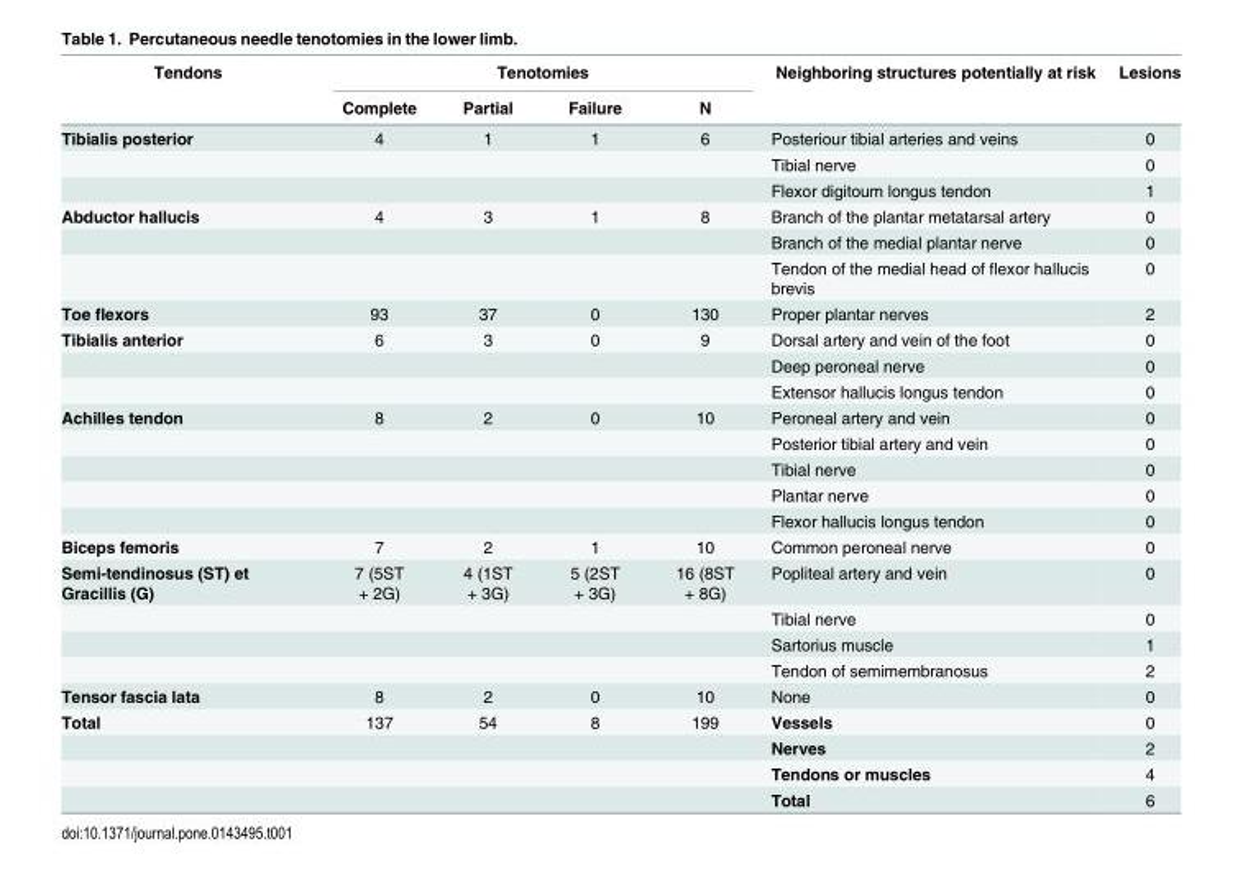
<table><thead><tr><td rowspan="2">Tendons</td><td colspan="4">Tenotomies</td><td rowspan="2">Neighboring structures potentially at risk</td><td rowspan="2">Lesions</td></tr><tr><td>Complete</td><td>Partial</td><td>Failure</td><td>N</td></tr></thead><tbody><tr><td rowspan="3">Tibialis posterior</td><td>4</td><td>1</td><td>1</td><td>6</td><td>Posteriour tibial arteries and veins</td><td>0</td></tr><tr><td></td><td></td><td></td><td></td><td>Tibial nerve</td><td>0</td></tr><tr><td></td><td></td><td></td><td></td><td>Flexor digitoum longus tendon</td><td>1</td></tr><tr><td rowspan="3">Abductor hallucis</td><td>4</td><td>3</td><td>1</td><td>8</td><td>Branch of the plantar metatarsal artery</td><td>0</td></tr><tr><td></td><td></td><td></td><td></td><td>Branch of the medial plantar nerve</td><td>0</td></tr><tr><td></td><td></td><td></td><td></td><td>Tendon of the medial head of flexor hallucis brevis</td><td>0</td></tr><tr><td>Toe flexors</td><td>93</td><td>37</td><td>0</td><td>130</td><td>Proper plantar nerves</td><td>2</td></tr><tr><td rowspan="3">Tibialis anterior</td><td>6</td><td>3</td><td>0</td><td>9</td><td>Dorsal artery and vein of the foot</td><td>0</td></tr><tr><td></td><td></td><td></td><td></td><td>Deep peroneal nerve</td><td>0</td></tr><tr><td></td><td></td><td></td><td></td><td>Extensor hallucis longus tendon</td><td>0</td></tr><tr><td rowspan="5">Achilles tendon</td><td>8</td><td>2</td><td>0</td><td>10</td><td>Peroneal artery and vein</td><td>0</td></tr><tr><td></td><td></td><td></td><td></td><td>Posterior tibial artery and vein</td><td>0</td></tr><tr><td></td><td></td><td></td><td></td><td>Tibial nerve</td><td>0</td></tr><tr><td></td><td></td><td></td><td></td><td>Plantar nerve</td><td>0</td></tr><tr><td></td><td></td><td></td><td></td><td>Flexor hallucis longus tendon</td><td>0</td></tr><tr><td>Biceps femoris</td><td>7</td><td>2</td><td>1</td><td>10</td><td>Common peroneal nerve</td><td>0</td></tr><tr><td rowspan="4">Semi-tendinosus (ST) et Gracillis (G)</td><td>7 (5ST + 2G)</td><td>4 (1ST + 3G)</td><td>5 (2ST + 3G)</td><td>16 (8ST + 8G)</td><td>Popliteal artery and vein</td><td>0</td></tr><tr><td></td><td></td><td></td><td></td><td>Tibial nerve</td><td>0</td></tr><tr><td></td><td></td><td></td><td></td><td>Sartorius muscle</td><td>1</td></tr><tr><td></td><td></td><td></td><td></td><td>Tendon of semimembranosus</td><td>2</td></tr><tr><td>Tensor fascia lata</td><td>8</td><td>2</td><td>0</td><td>10</td><td>None</td><td>0</td></tr><tr><td rowspan="4">Total</td><td>137</td><td>54</td><td>8</td><td>199</td><td>Vessels</td><td>0</td></tr><tr><td></td><td></td><td></td><td></td><td>Nerves</td><td>2</td></tr><tr><td></td><td></td><td></td><td></td><td>Tendons or muscles</td><td>4</td></tr><tr><td></td><td></td><td></td><td></td><td>Total</td><td>6</td></tr></tbody></table>